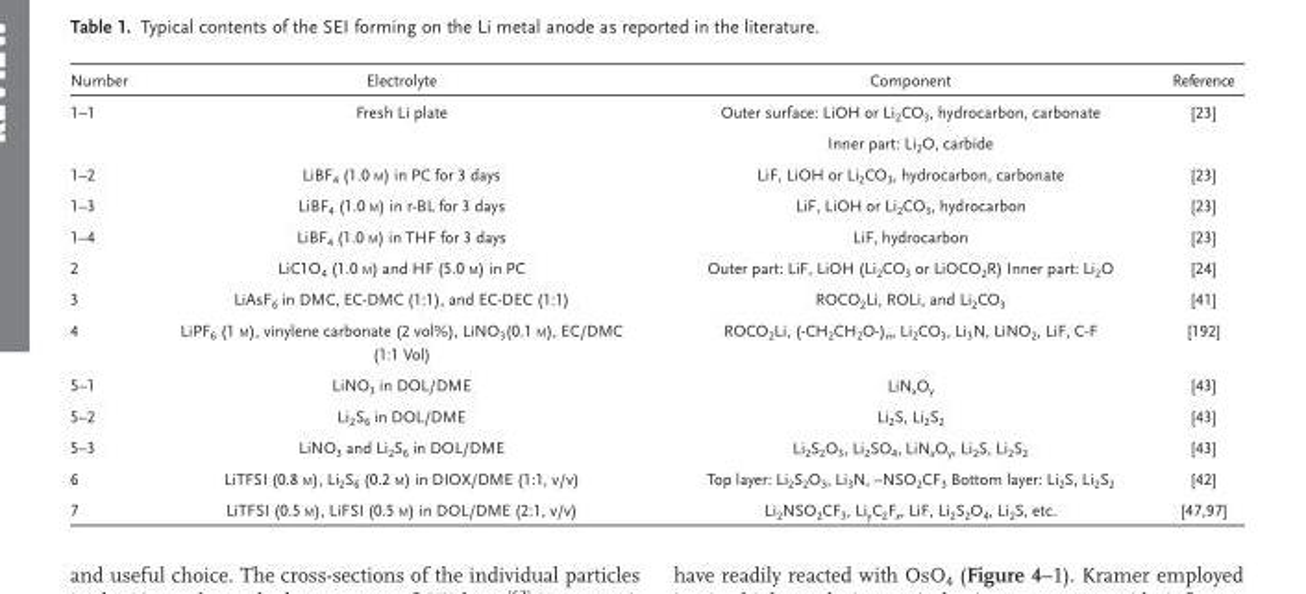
<table><thead><tr><td>Number</td><td>Electrolyte</td><td>Component</td><td>Reference</td></tr></thead><tbody><tr><td rowspan="2">1–1</td><td>Fresh Li plate</td><td>Outer surface: LiOH or Li <sub>2</sub> CO <sub>3</sub> , hydrocarbon, carbonate</td><td>[23]</td></tr><tr><td></td><td>Inner part: Li <sub>2</sub> O, carbide</td><td></td></tr><tr><td>1–2</td><td>LiBF <sub>4</sub> (1.0 M ) in PC for 3 days</td><td>LiF, LiOH or Li <sub>2</sub> CO <sub>3</sub> , hydrocarbon, carbonate</td><td>[23]</td></tr><tr><td>1–3</td><td>LiBF <sub>4</sub> (1.0 M ) in r-BL for 3 days</td><td>LiF, LiOH or Li <sub>2</sub> CO <sub>3</sub> , hydrocarbon</td><td>[23]</td></tr><tr><td>1–4</td><td>LiBF <sub>4</sub> (1.0 M ) in THF for 3 days</td><td>LiF, hydrocarbon</td><td>[23]</td></tr><tr><td>2</td><td>LiC1O <sub>4</sub> (1.0 M ) and HF (5.0 M ) in PC</td><td>Outer part: LiF, LiOH (Li <sub>2</sub> CO <sub>3</sub> or LiOCO <sub>2</sub> R) Inner part: Li <sub>2</sub> O</td><td>[24]</td></tr><tr><td>3</td><td>LiAsF <sub>6</sub> in DMC, EC-DMC (1:1), and EC-DEC (1:1)</td><td>ROCO <sub>2</sub> Li, ROLi, and Li <sub>2</sub> CO <sub>3</sub></td><td>[41]</td></tr><tr><td>4</td><td>LiPF <sub>6</sub> (1 M ), vinylene carbonate (2 vol%), LiNO <sub>3</sub> (0.1 M ), EC/DMC (1:1 Vol)</td><td>ROCO <sub>2</sub> Li, (-CH <sub>2</sub> CH <sub>2</sub> O-) <sub>n</sub> , Li <sub>2</sub> CO <sub>3</sub> , Li <sub>3</sub> N, LiNO <sub>2</sub> , LiF, C-F</td><td>[192]</td></tr><tr><td>5–1</td><td>LiNO <sub>3</sub> in DOL/DME</td><td>LiN <sub>x</sub> O <sub>y</sub></td><td>[43]</td></tr><tr><td>5–2</td><td>Li <sub>2</sub> S <sub>6</sub> in DOL/DME</td><td>Li <sub>2</sub> S, Li <sub>2</sub> S <sub>2</sub></td><td>[43]</td></tr><tr><td>5–3</td><td>LiNO <sub>3</sub> and Li <sub>2</sub> S <sub>6</sub> in DOL/DME</td><td>Li <sub>2</sub> S <sub>2</sub> O <sub>3</sub> , Li <sub>2</sub> SO <sub>4</sub> , LiN <sub>x</sub> O <sub>y</sub> , Li <sub>2</sub> S, Li <sub>2</sub> S <sub>2</sub></td><td>[43]</td></tr><tr><td>6</td><td>LiTFSI (0.8 M ), Li <sub>2</sub> S <sub>6</sub> (0.2 M ) in DIOX/DME (1:1, v/v)</td><td>Top layer: Li <sub>2</sub> S <sub>2</sub> O <sub>3</sub> , Li <sub>3</sub> N, –NSO <sub>2</sub> CF <sub>3</sub> Bottom layer: Li <sub>2</sub> S, Li <sub>2</sub> S <sub>2</sub></td><td>[42]</td></tr><tr><td>7</td><td>LiTFSI (0.5 M ), LiFSI (0.5 M ) in DOL/DME (2:1, v/v)</td><td>Li <sub>2</sub> NSO <sub>2</sub> CF <sub>3</sub> , Li <sub>y</sub> C <sub>2</sub> F <sub>x</sub> , LiF, Li <sub>2</sub> S <sub>2</sub> O <sub>4</sub> , Li <sub>2</sub> S, etc.</td><td>[47,97]</td></tr></tbody></table>